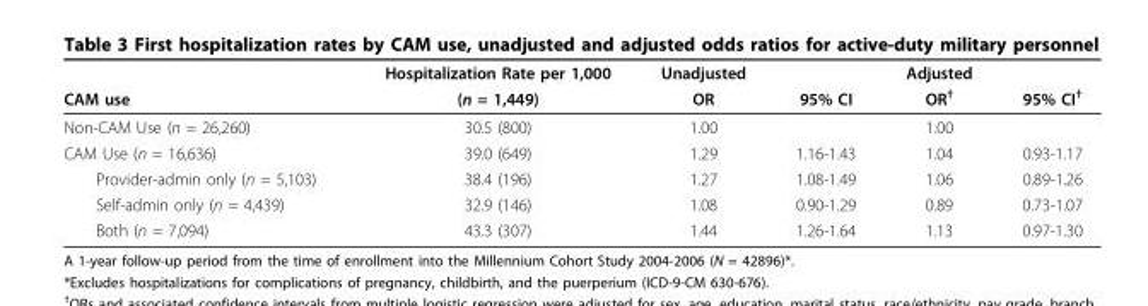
<table><thead><tr><td rowspan="2">CAM use</td><td rowspan="2">Hospitalization Rate per 1,000 (n = 1,449)</td><td rowspan="2">Unadjusted OR</td><td rowspan="2">95% CI</td><td rowspan="2">Adjusted OR<sup>†</sup></td><td rowspan="2">95% CI<sup>†</sup></td></tr><tr></tr></thead><tbody><tr><td>Non-CAM Use (n = 26,260)</td><td>30.5 (800)</td><td>1.00</td><td></td><td>1.00</td><td></td></tr><tr><td>CAM Use (n = 16,636)</td><td>39.0 (649)</td><td>1.29</td><td>1.16-1.43</td><td>1.04</td><td>0.93-1.17</td></tr><tr><td>Provider-admin only (n = 5,103)</td><td>38.4 (196)</td><td>1.27</td><td>1.08-1.49</td><td>1.06</td><td>0.89-1.26</td></tr><tr><td>Self-admin only (n = 4,439)</td><td>32.9 (146)</td><td>1.08</td><td>0.90-1.29</td><td>0.89</td><td>0.73-1.07</td></tr><tr><td>Both (n = 7,094)</td><td>43.3 (307)</td><td>1.44</td><td>1.26-1.64</td><td>1.13</td><td>0.97-1.30</td></tr></tbody></table>